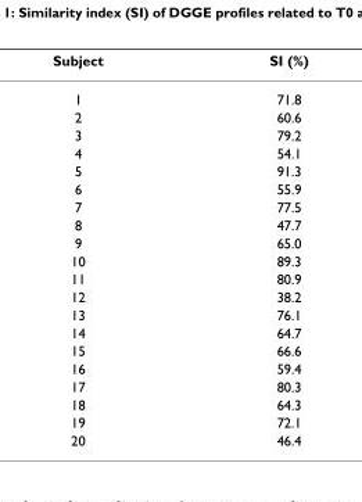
<table><thead><tr><td>Subject</td><td>SI (%)</td></tr></thead><tbody><tr><td>1</td><td>71.8</td></tr><tr><td>2</td><td>60.6</td></tr><tr><td>3</td><td>79.2</td></tr><tr><td>4</td><td>54.1</td></tr><tr><td>5</td><td>91.3</td></tr><tr><td>6</td><td>55.9</td></tr><tr><td>7</td><td>77.5</td></tr><tr><td>8</td><td>47.7</td></tr><tr><td>9</td><td>65.0</td></tr><tr><td>10</td><td>89.3</td></tr><tr><td>11</td><td>80.9</td></tr><tr><td>12</td><td>38.2</td></tr><tr><td>13</td><td>76.1</td></tr><tr><td>14</td><td>64.7</td></tr><tr><td>15</td><td>66.6</td></tr><tr><td>16</td><td>59.4</td></tr><tr><td>17</td><td>80.3</td></tr><tr><td>18</td><td>64.3</td></tr><tr><td>19</td><td>72.1</td></tr><tr><td>20</td><td>46.4</td></tr></tbody></table>